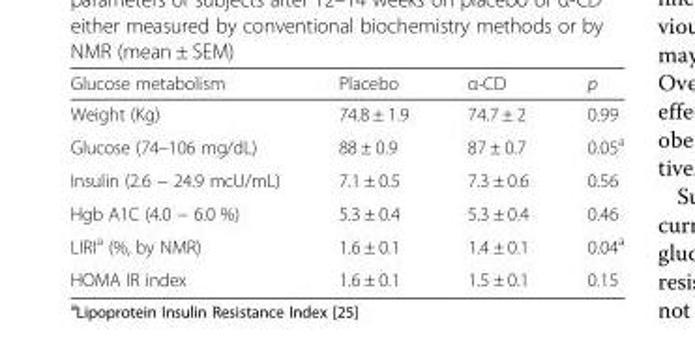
<table><thead><tr><td>Glucose metabolism</td><td>Placebo</td><td>α-CD</td><td>p</td></tr></thead><tbody><tr><td>Weight (Kg)</td><td>74.8 ± 1.9</td><td>74.7 ± 2</td><td>0.99</td></tr><tr><td>Glucose (74–106 mg/dL)</td><td>88 ± 0.9</td><td>87 ± 0.7</td><td>0.05<sup>a</sup></td></tr><tr><td>Insulin (2.6 − 24.9 mcU/mL)</td><td>7.1 ± 0.5</td><td>7.3 ± 0.6</td><td>0.56</td></tr><tr><td>Hgb A1C (4.0 − 6.0 %)</td><td>5.3 ± 0.4</td><td>5.3 ± 0.4</td><td>0.46</td></tr><tr><td>LIRI<sup>a</sup> (%, by NMR)</td><td>1.6 ± 0.1</td><td>1.4 ± 0.1</td><td>0.04<sup>a</sup></td></tr><tr><td>HOMA IR index</td><td>1.6 ± 0.1</td><td>1.5 ± 0.1</td><td>0.15</td></tr></tbody></table>